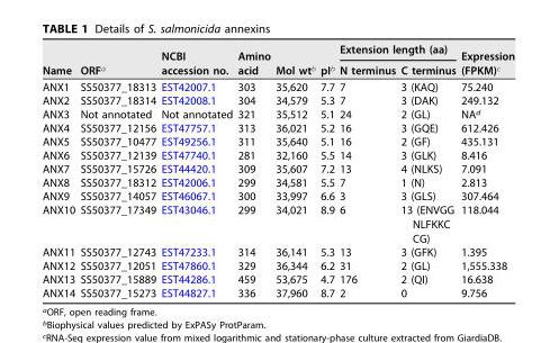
<table><thead><tr><td rowspan="2">Name</td><td rowspan="2">ORF<sup>a</sup></td><td rowspan="2">NCBI accession no.</td><td rowspan="2">Amino acid</td><td rowspan="2">Mol wt<sup>b</sup></td><td rowspan="2">pI<sup>b</sup></td><td colspan="2">Extension length (aa)</td><td rowspan="2">Expression (FPKM)<sup>c</sup></td></tr><tr><td>N terminus</td><td>C terminus</td></tr></thead><tbody><tr><td>ANX1</td><td>SS50377_18313</td><td>EST42007.1</td><td>303</td><td>35,620</td><td>7.7</td><td>7</td><td>3 (KAQ)</td><td>75.240</td></tr><tr><td>ANX2</td><td>SS50377_18314</td><td>EST42008.1</td><td>304</td><td>34,579</td><td>5.3</td><td>7</td><td>3 (DAK)</td><td>249.132</td></tr><tr><td>ANX3</td><td>Not annotated</td><td>Not annotated</td><td>321</td><td>35,512</td><td>5.1</td><td>24</td><td>2 (GL)</td><td>NA<sup>d</sup></td></tr><tr><td>ANX4</td><td>SS50377_12156</td><td>EST47757.1</td><td>313</td><td>36,021</td><td>5.2</td><td>16</td><td>3 (GQE)</td><td>612.426</td></tr><tr><td>ANX5</td><td>SS50377_10477</td><td>EST49256.1</td><td>311</td><td>35,640</td><td>5.1</td><td>16</td><td>2 (GF)</td><td>435.131</td></tr><tr><td>ANX6</td><td>SS50377_12139</td><td>EST47740.1</td><td>281</td><td>32,160</td><td>5.5</td><td>14</td><td>3 (GLK)</td><td>8.416</td></tr><tr><td>ANX7</td><td>SS50377_15726</td><td>EST44420.1</td><td>309</td><td>35,607</td><td>7.2</td><td>13</td><td>4 (NLKS)</td><td>7.091</td></tr><tr><td>ANX8</td><td>SS50377_18312</td><td>EST42006.1</td><td>299</td><td>34,581</td><td>5.5</td><td>7</td><td>1 (N)</td><td>2.813</td></tr><tr><td>ANX9</td><td>SS50377_14057</td><td>EST46067.1</td><td>300</td><td>33,997</td><td>6.6</td><td>3</td><td>3 (GLS)</td><td>307.464</td></tr><tr><td>ANX10</td><td>SS50377_17349</td><td>EST43046.1</td><td>299</td><td>34,021</td><td>8.9</td><td>6</td><td>13 (ENVGG NLFKKC CG)</td><td>118.044</td></tr><tr><td>ANX11</td><td>SS50377_12743</td><td>EST47233.1</td><td>314</td><td>36,141</td><td>5.3</td><td>13</td><td>3 (GFK)</td><td>1.395</td></tr><tr><td>ANX12</td><td>SS50377_12051</td><td>EST47860.1</td><td>329</td><td>36,344</td><td>6.2</td><td>31</td><td>2 (GL)</td><td>1,555.338</td></tr><tr><td>ANX13</td><td>SS50377_15889</td><td>EST44286.1</td><td>459</td><td>53,675</td><td>4.7</td><td>176</td><td>2 (QI)</td><td>16.638</td></tr><tr><td>ANX14</td><td>SS50377_15273</td><td>EST44827.1</td><td>336</td><td>37,960</td><td>8.7</td><td>2</td><td>0</td><td>9.756</td></tr></tbody></table>